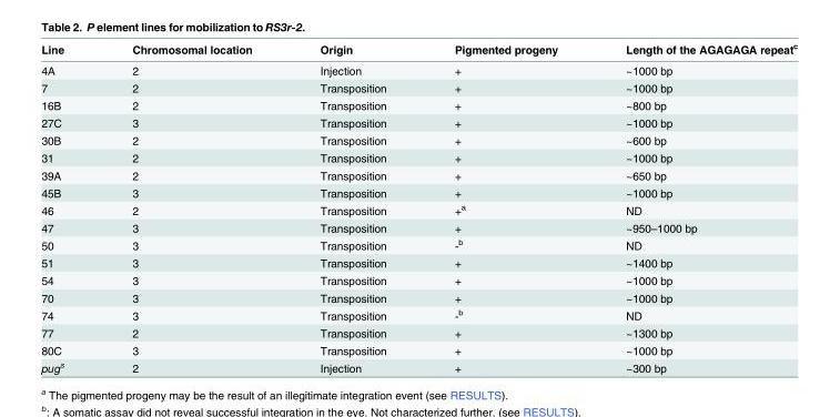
<table><thead><tr><td>Line</td><td>Chromosomal location</td><td>Origin</td><td>Pigmented progeny</td><td>Length of the AGAGAGA repeat<sup>c</sup></td></tr></thead><tbody><tr><td>4A</td><td>2</td><td>Injection</td><td>+</td><td>~1000 bp</td></tr><tr><td>7</td><td>2</td><td>Transposition</td><td>+</td><td>~1000 bp</td></tr><tr><td>16B</td><td>2</td><td>Transposition</td><td>+</td><td>~800 bp</td></tr><tr><td>27C</td><td>3</td><td>Transposition</td><td>+</td><td>~1000 bp</td></tr><tr><td>30B</td><td>2</td><td>Transposition</td><td>+</td><td>~600 bp</td></tr><tr><td>31</td><td>2</td><td>Transposition</td><td>+</td><td>~1000 bp</td></tr><tr><td>39A</td><td>2</td><td>Transposition</td><td>+</td><td>~650 bp</td></tr><tr><td>45B</td><td>3</td><td>Transposition</td><td>+</td><td>~1000 bp</td></tr><tr><td>46</td><td>2</td><td>Transposition</td><td>+<sup>a</sup></td><td>ND</td></tr><tr><td>47</td><td>3</td><td>Transposition</td><td>+</td><td>~950–1000 bp</td></tr><tr><td>50</td><td>3</td><td>Transposition</td><td>-<sup>b</sup></td><td>ND</td></tr><tr><td>51</td><td>3</td><td>Transposition</td><td>+</td><td>~1400 bp</td></tr><tr><td>54</td><td>3</td><td>Transposition</td><td>+</td><td>~1000 bp</td></tr><tr><td>70</td><td>3</td><td>Transposition</td><td>+</td><td>~1000 bp</td></tr><tr><td>74</td><td>3</td><td>Transposition</td><td>-<sup>b</sup></td><td>ND</td></tr><tr><td>77</td><td>2</td><td>Transposition</td><td>+</td><td>~1300 bp</td></tr><tr><td>80C</td><td>3</td><td>Transposition</td><td>+</td><td>~1000 bp</td></tr><tr><td>pug<sup>s</sup></td><td>2</td><td>Injection</td><td>+</td><td>~300 bp</td></tr></tbody></table>